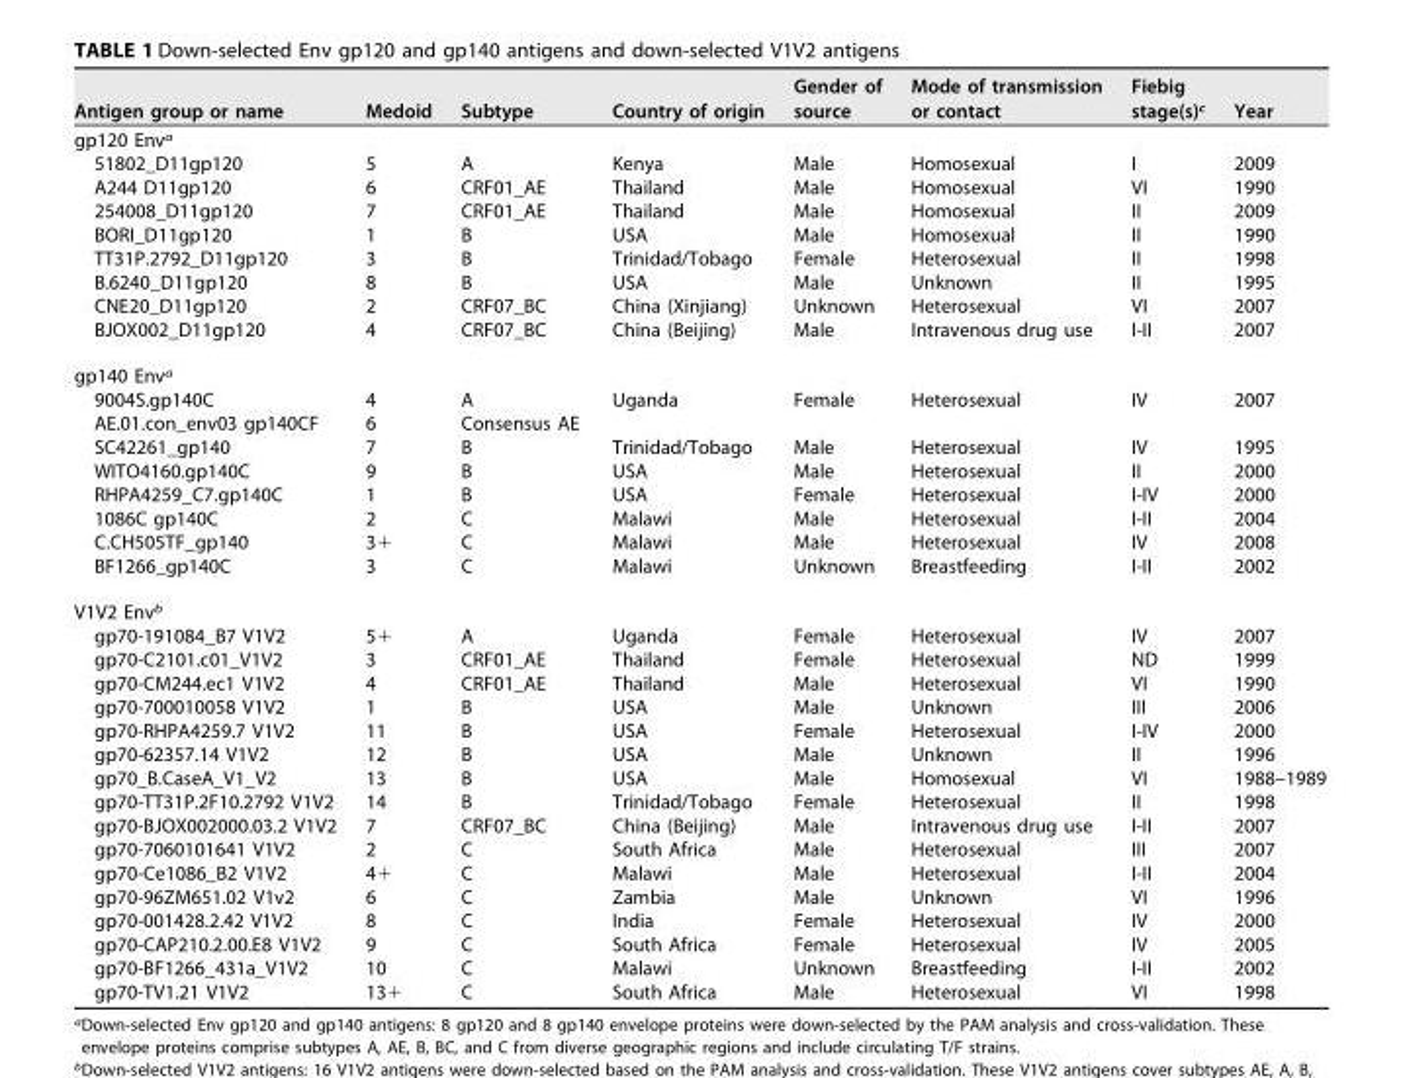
<table><thead><tr><td>Antigen group or name</td><td>Medoid</td><td>Subtype</td><td>Country of origin</td><td>Gender of source</td><td>Mode of transmission or contact</td><td>Fiebig stage(s)<sup>c</sup></td><td>Year</td></tr></thead><tbody><tr><td colspan="8">gp120 Env<sup>a</sup></td></tr><tr><td>51802_D11gp120</td><td>5</td><td>A</td><td>Kenya</td><td>Male</td><td>Homosexual</td><td>I</td><td>2009</td></tr><tr><td>A244 D11gp120</td><td>6</td><td>CRF01_AE</td><td>Thailand</td><td>Male</td><td>Homosexual</td><td>VI</td><td>1990</td></tr><tr><td>254008_D11gp120</td><td>7</td><td>CRF01_AE</td><td>Thailand</td><td>Male</td><td>Homosexual</td><td>II</td><td>2009</td></tr><tr><td>BORI_D11gp120</td><td>1</td><td>B</td><td>USA</td><td>Male</td><td>Homosexual</td><td>II</td><td>1990</td></tr><tr><td>TT31P.2792_D11gp120</td><td>3</td><td>B</td><td>Trinidad/Tobago</td><td>Female</td><td>Heterosexual</td><td>II</td><td>1998</td></tr><tr><td>B.6240_D11gp120</td><td>8</td><td>B</td><td>USA</td><td>Male</td><td>Unknown</td><td>II</td><td>1995</td></tr><tr><td>CNE20_D11gp120</td><td>2</td><td>CRF07_BC</td><td>China (Xinjiang)</td><td>Unknown</td><td>Heterosexual</td><td>VI</td><td>2007</td></tr><tr><td>BJOX002_D11gp120</td><td>4</td><td>CRF07_BC</td><td>China (Beijing)</td><td>Male</td><td>Intravenous drug use</td><td>I-II</td><td>2007</td></tr><tr><td colspan="8">gp140 Env<sup>a</sup></td></tr><tr><td>9004S.gp140C</td><td>4</td><td>A</td><td>Uganda</td><td>Female</td><td>Heterosexual</td><td>IV</td><td>2007</td></tr><tr><td>AE.01.con_env03 gp140CF</td><td>6</td><td>Consensus AE</td><td></td><td></td><td></td><td></td><td></td></tr><tr><td>SC42261_gp140</td><td>7</td><td>B</td><td>Trinidad/Tobago</td><td>Male</td><td>Heterosexual</td><td>IV</td><td>1995</td></tr><tr><td>WITO4160.gp140C</td><td>9</td><td>B</td><td>USA</td><td>Male</td><td>Heterosexual</td><td>II</td><td>2000</td></tr><tr><td>RHPA4259_C7.gp140C</td><td>1</td><td>B</td><td>USA</td><td>Female</td><td>Heterosexual</td><td>I-IV</td><td>2000</td></tr><tr><td>1086C gp140C</td><td>2</td><td>C</td><td>Malawi</td><td>Male</td><td>Heterosexual</td><td>I-II</td><td>2004</td></tr><tr><td>C.CH505TF_gp140</td><td>3+</td><td>C</td><td>Malawi</td><td>Male</td><td>Heterosexual</td><td>IV</td><td>2008</td></tr><tr><td>BF1266_gp140C</td><td>3</td><td>C</td><td>Malawi</td><td>Unknown</td><td>Breastfeeding</td><td>I-II</td><td>2002</td></tr><tr><td colspan="8">V1V2 Env<sup>b</sup></td></tr><tr><td>gp70-191084_B7 V1V2</td><td>5+</td><td>A</td><td>Uganda</td><td>Female</td><td>Heterosexual</td><td>IV</td><td>2007</td></tr><tr><td>gp70-C2101.c01_V1V2</td><td>3</td><td>CRF01_AE</td><td>Thailand</td><td>Female</td><td>Heterosexual</td><td>ND</td><td>1999</td></tr><tr><td>gp70-CM244.ec1 V1V2</td><td>4</td><td>CRF01_AE</td><td>Thailand</td><td>Male</td><td>Heterosexual</td><td>VI</td><td>1990</td></tr><tr><td>gp70-700010058 V1V2</td><td>1</td><td>B</td><td>USA</td><td>Male</td><td>Unknown</td><td>III</td><td>2006</td></tr><tr><td>gp70-RHPA4259.7 V1V2</td><td>11</td><td>B</td><td>USA</td><td>Female</td><td>Heterosexual</td><td>I-IV</td><td>2000</td></tr><tr><td>gp70-62357.14 V1V2</td><td>12</td><td>B</td><td>USA</td><td>Male</td><td>Unknown</td><td>II</td><td>1996</td></tr><tr><td>gp70_B.CaseA_V1_V2</td><td>13</td><td>B</td><td>USA</td><td>Male</td><td>Homosexual</td><td>VI</td><td>1988–1989</td></tr><tr><td>gp70-TT31P.2F10.2792 V1V2</td><td>14</td><td>B</td><td>Trinidad/Tobago</td><td>Female</td><td>Heterosexual</td><td>II</td><td>1998</td></tr><tr><td>gp70-BJOX002000.03.2 V1V2</td><td>7</td><td>CRF07_BC</td><td>China (Beijing)</td><td>Male</td><td>Intravenous drug use</td><td>I-II</td><td>2007</td></tr><tr><td>gp70-7060101641 V1V2</td><td>2</td><td>C</td><td>South Africa</td><td>Male</td><td>Heterosexual</td><td>III</td><td>2007</td></tr><tr><td>gp70-Ce1086_B2 V1V2</td><td>4+</td><td>C</td><td>Malawi</td><td>Male</td><td>Heterosexual</td><td>I-II</td><td>2004</td></tr><tr><td>gp70-96ZM651.02 V1v2</td><td>6</td><td>C</td><td>Zambia</td><td>Male</td><td>Unknown</td><td>VI</td><td>1996</td></tr><tr><td>gp70-001428.2.42 V1V2</td><td>8</td><td>C</td><td>India</td><td>Female</td><td>Heterosexual</td><td>IV</td><td>2000</td></tr><tr><td>gp70-CAP210.2.00.E8 V1V2</td><td>9</td><td>C</td><td>South Africa</td><td>Female</td><td>Heterosexual</td><td>IV</td><td>2005</td></tr><tr><td>gp70-BF1266_431a_V1V2</td><td>10</td><td>C</td><td>Malawi</td><td>Unknown</td><td>Breastfeeding</td><td>I-II</td><td>2002</td></tr><tr><td>gp70-TV1.21 V1V2</td><td>13+</td><td>C</td><td>South Africa</td><td>Male</td><td>Heterosexual</td><td>VI</td><td>1998</td></tr></tbody></table>